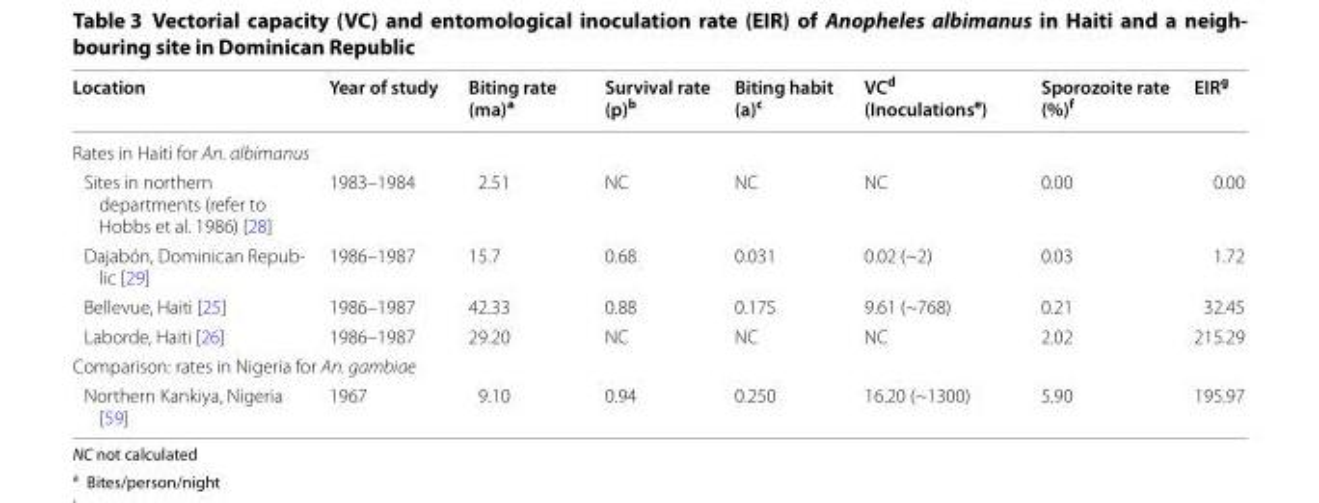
<table><thead><tr><td>Location</td><td>Year of study</td><td>Biting rate (ma)<sup>a</sup></td><td>Survival rate (p)<sup>b</sup></td><td>Biting habit (a)<sup>c</sup></td><td>VC<sup>d</sup> (Inoculations<sup>e</sup>)</td><td>Sporozoite rate (%)<sup>f</sup></td><td>EIR<sup>g</sup></td></tr></thead><tbody><tr><td colspan="8">Rates in Haiti for An. albimanus</td></tr><tr><td>Sites in northern departments (refer to Hobbs et al. 1986) [28]</td><td>1983–1984</td><td>2.51</td><td>NC</td><td>NC</td><td>NC</td><td>0.00</td><td>0.00</td></tr><tr><td>Dajabón, Dominican Repub- lic [29]</td><td>1986–1987</td><td>15.7</td><td>0.68</td><td>0.031</td><td>0.02 (~2)</td><td>0.03</td><td>1.72</td></tr><tr><td>Bellevue, Haiti [25]</td><td>1986–1987</td><td>42.33</td><td>0.88</td><td>0.175</td><td>9.61 (~768)</td><td>0.21</td><td>32.45</td></tr><tr><td>Laborde, Haiti [26]</td><td>1986–1987</td><td>29.20</td><td>NC</td><td>NC</td><td>NC</td><td>2.02</td><td>215.29</td></tr><tr><td colspan="8">Comparison: rates in Nigeria for An. gambiae</td></tr><tr><td>Northern Kankiya, Nigeria [59]</td><td>1967</td><td>9.10</td><td>0.94</td><td>0.250</td><td>16.20 (~1300)</td><td>5.90</td><td>195.97</td></tr></tbody></table>